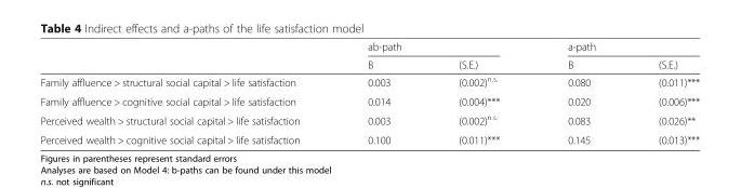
<table><thead><tr><td rowspan="2"></td><td colspan="2">ab-path</td><td colspan="2">a-path</td></tr><tr><td>B</td><td>(S.E.)</td><td>B</td><td>(S.E.)</td></tr></thead><tbody><tr><td>Family affluence &gt; structural social capital &gt; life satisfaction</td><td>0.003</td><td>(0.002)<sup>n.s.</sup></td><td>0.080</td><td>(0.011)***</td></tr><tr><td>Family affluence &gt; cognitive social capital &gt; life satisfaction</td><td>0.014</td><td>(0.004)***</td><td>0.020</td><td>(0.006)***</td></tr><tr><td>Perceived wealth &gt; structural social capital &gt; life satisfaction</td><td>0.003</td><td>(0.002)<sup>n.s.</sup></td><td>0.083</td><td>(0.026)**</td></tr><tr><td>Perceived wealth &gt; cognitive social capital &gt; life satisfaction</td><td>0.100</td><td>(0.011)***</td><td>0.145</td><td>(0.013)***</td></tr></tbody></table>